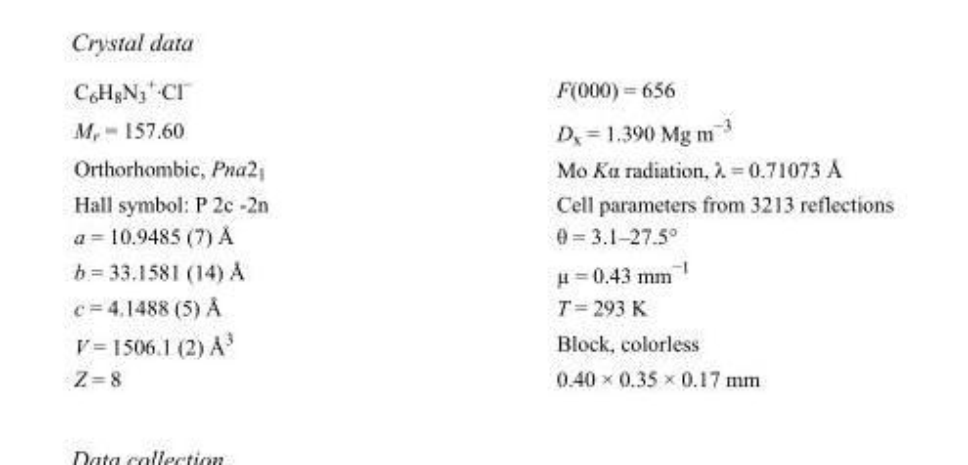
<table><tbody><tr><td>C<sub>6</sub>H<sub>8</sub>N<sub>3</sub> <sup>+</sup>·Cl<sup>−</sup></td><td>F(000) = 656</td></tr><tr><td>M<sub>r</sub> = 157.60</td><td>D<sub>x</sub> = 1.390 Mg m<sup>−3</sup></td></tr><tr><td>Orthorhombic, Pna2<sub>1</sub></td><td>Mo Kα radiation, λ = 0.71073 Å</td></tr><tr><td>Hall symbol: P 2c -2n</td><td>Cell parameters from 3213 reflections</td></tr><tr><td>a = 10.9485 (7) Å</td><td>θ = 3.1–27.5°</td></tr><tr><td>b = 33.1581 (14) Å</td><td>µ = 0.43 mm<sup>−1</sup></td></tr><tr><td>c = 4.1488 (5) Å</td><td>T = 293 K</td></tr><tr><td>V = 1506.1 (2) Å<sup>3</sup></td><td>Block, colorless</td></tr><tr><td>Z = 8</td><td>0.40 × 0.35 × 0.17 mm</td></tr></tbody></table>